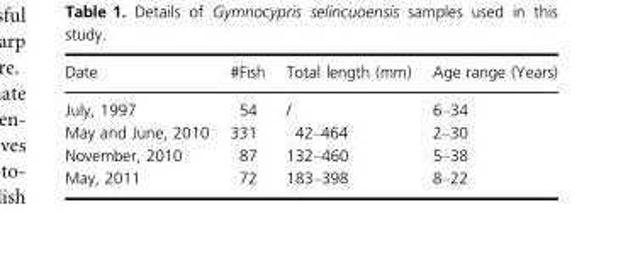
<table><thead><tr><td>Date</td><td>#Fish</td><td>Total length (mm)</td><td>Age range (Years)</td></tr></thead><tbody><tr><td>July, 1997</td><td>54</td><td>/</td><td>6–34</td></tr><tr><td>May and June, 2010</td><td>331</td><td>42–464</td><td>2–30</td></tr><tr><td>November, 2010</td><td>87</td><td>132–460</td><td>5–38</td></tr><tr><td>May, 2011</td><td>72</td><td>183–398</td><td>8–22</td></tr></tbody></table>